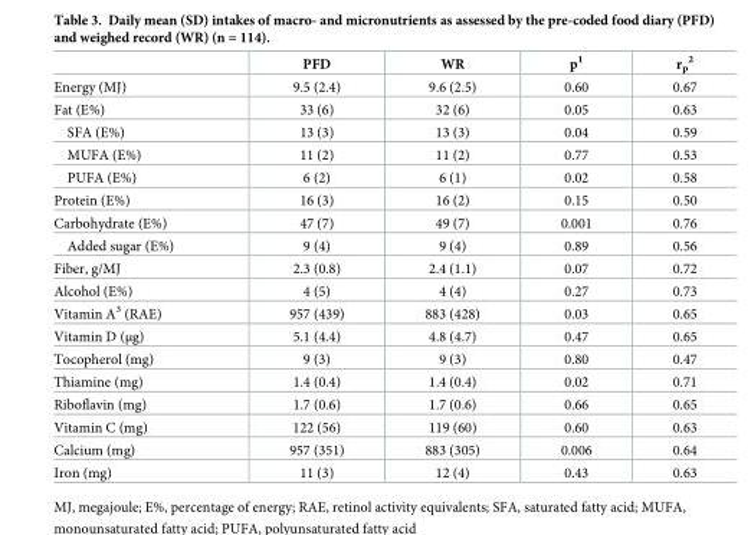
<table><thead><tr><td></td><td>PFD</td><td>WR</td><td>p<sup>1</sup></td><td>r<sub>p</sub> <sup>2</sup></td></tr></thead><tbody><tr><td>Energy (MJ)</td><td>9.5 (2.4)</td><td>9.6 (2.5)</td><td>0.60</td><td>0.67</td></tr><tr><td>Fat (E%)</td><td>33 (6)</td><td>32 (6)</td><td>0.05</td><td>0.63</td></tr><tr><td>SFA (E%)</td><td>13 (3)</td><td>13 (3)</td><td>0.04</td><td>0.59</td></tr><tr><td>MUFA (E%)</td><td>11 (2)</td><td>11 (2)</td><td>0.77</td><td>0.53</td></tr><tr><td>PUFA (E%)</td><td>6 (2)</td><td>6 (1)</td><td>0.02</td><td>0.58</td></tr><tr><td>Protein (E%)</td><td>16 (3)</td><td>16 (2)</td><td>0.15</td><td>0.50</td></tr><tr><td>Carbohydrate (E%)</td><td>47 (7)</td><td>49 (7)</td><td>0.001</td><td>0.76</td></tr><tr><td>Added sugar (E%)</td><td>9 (4)</td><td>9 (4)</td><td>0.89</td><td>0.56</td></tr><tr><td>Fiber, g/MJ</td><td>2.3 (0.8)</td><td>2.4 (1.1)</td><td>0.07</td><td>0.72</td></tr><tr><td>Alcohol (E%)</td><td>4 (5)</td><td>4 (4)</td><td>0.27</td><td>0.73</td></tr><tr><td>Vitamin A<sup>3</sup> (RAE)</td><td>957 (439)</td><td>883 (428)</td><td>0.03</td><td>0.65</td></tr><tr><td>Vitamin D (μg)</td><td>5.1 (4.4)</td><td>4.8 (4.7)</td><td>0.47</td><td>0.65</td></tr><tr><td>Tocopherol (mg)</td><td>9 (3)</td><td>9 (3)</td><td>0.80</td><td>0.47</td></tr><tr><td>Thiamine (mg)</td><td>1.4 (0.4)</td><td>1.4 (0.4)</td><td>0.02</td><td>0.71</td></tr><tr><td>Riboflavin (mg)</td><td>1.7 (0.6)</td><td>1.7 (0.6)</td><td>0.66</td><td>0.65</td></tr><tr><td>Vitamin C (mg)</td><td>122 (56)</td><td>119 (60)</td><td>0.60</td><td>0.63</td></tr><tr><td>Calcium (mg)</td><td>957 (351)</td><td>883 (305)</td><td>0.006</td><td>0.64</td></tr><tr><td>Iron (mg)</td><td>11 (3)</td><td>12 (4)</td><td>0.43</td><td>0.63</td></tr></tbody></table>